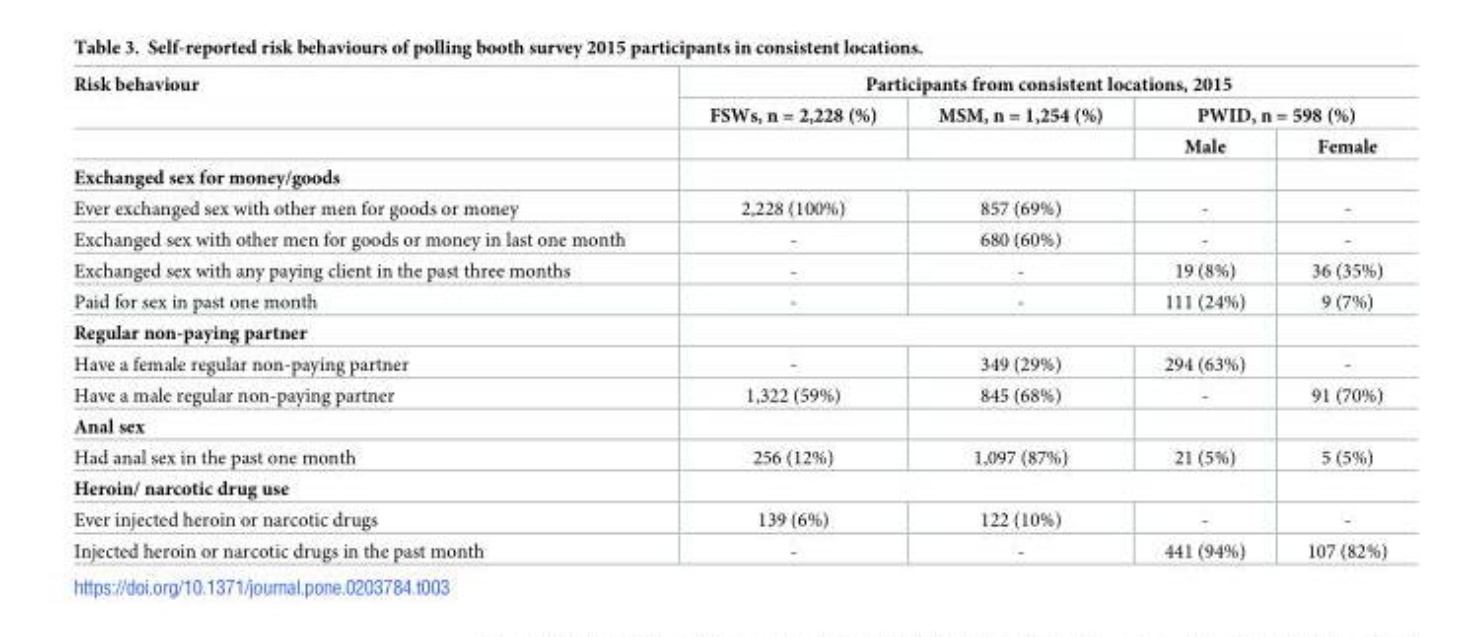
<table><thead><tr><td rowspan="3">Risk behaviour</td><td colspan="4">Participants from consistent locations, 2015</td></tr><tr><td rowspan="2">FSWs, n = 2,228 (%)</td><td rowspan="2">MSM, n = 1,254 (%)</td><td colspan="2">PWID, n = 598 (%)</td></tr><tr><td>Male</td><td>Female</td></tr></thead><tbody><tr><td colspan="5">Exchanged sex for money/goods</td></tr><tr><td>Ever exchanged sex with other men for goods or money</td><td>2,228 (100%)</td><td>857 (69%)</td><td>-</td><td>-</td></tr><tr><td>Exchanged sex with other men for goods or money in last one month</td><td>-</td><td>680 (60%)</td><td>-</td><td>-</td></tr><tr><td>Exchanged sex with any paying client in the past three months</td><td>-</td><td>-</td><td>19 (8%)</td><td>36 (35%)</td></tr><tr><td>Paid for sex in past one month</td><td>-</td><td>-</td><td>111 (24%)</td><td>9 (7%)</td></tr><tr><td colspan="5">Regular non-paying partner</td></tr><tr><td>Have a female regular non-paying partner</td><td>-</td><td>349 (29%)</td><td>294 (63%)</td><td>-</td></tr><tr><td>Have a male regular non-paying partner</td><td>1,322 (59%)</td><td>845 (68%)</td><td>-</td><td>91 (70%)</td></tr><tr><td colspan="5">Anal sex</td></tr><tr><td>Had anal sex in the past one month</td><td>256 (12%)</td><td>1,097 (87%)</td><td>21 (5%)</td><td>5 (5%)</td></tr><tr><td colspan="5">Heroin/ narcotic drug use</td></tr><tr><td>Ever injected heroin or narcotic drugs</td><td>139 (6%)</td><td>122 (10%)</td><td>-</td><td>-</td></tr><tr><td>Injected heroin or narcotic drugs in the past month</td><td>-</td><td>-</td><td>441 (94%)</td><td>107 (82%)</td></tr></tbody></table>